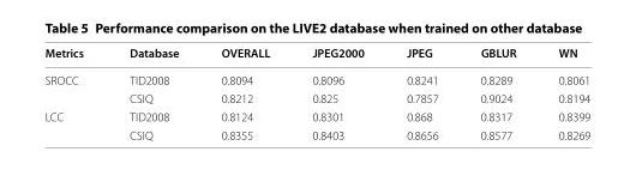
<table><thead><tr><td>Metrics</td><td>Database</td><td>OVERALL</td><td>JPEG2000</td><td>JPEG</td><td>GBLUR</td><td>WN</td></tr></thead><tbody><tr><td rowspan="2">SROCC</td><td>TID2008</td><td>0.8094</td><td>0.8096</td><td>0.8241</td><td>0.8289</td><td>0.8061</td></tr><tr><td>CSIQ</td><td>0.8212</td><td>0.825</td><td>0.7857</td><td>0.9024</td><td>0.8194</td></tr><tr><td rowspan="2">LCC</td><td>TID2008</td><td>0.8124</td><td>0.8301</td><td>0.868</td><td>0.8317</td><td>0.8399</td></tr><tr><td>CSIQ</td><td>0.8355</td><td>0.8403</td><td>0.8656</td><td>0.8577</td><td>0.8269</td></tr></tbody></table>